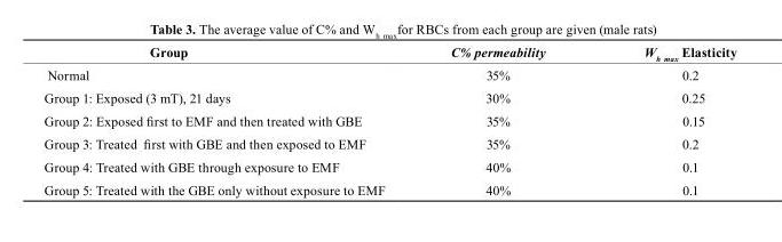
<table><thead><tr><td>Group</td><td>C% permeability</td><td>W<sub>h max</sub> Elasticity</td></tr></thead><tbody><tr><td>Normal</td><td>35%</td><td>0.2</td></tr><tr><td>Group 1: Exposed (3 mT), 21 days</td><td>30%</td><td>0.25</td></tr><tr><td>Group 2: Exposed first to EMF and then treated with GBE</td><td>35%</td><td>0.15</td></tr><tr><td>Group 3: Treated first with GBE and then exposed to EMF</td><td>35%</td><td>0.2</td></tr><tr><td>Group 4: Treated with GBE through exposure to EMF</td><td>40%</td><td>0.1</td></tr><tr><td>Group 5: Treated with the GBE only without exposure to EMF</td><td>40%</td><td>0.1</td></tr></tbody></table>